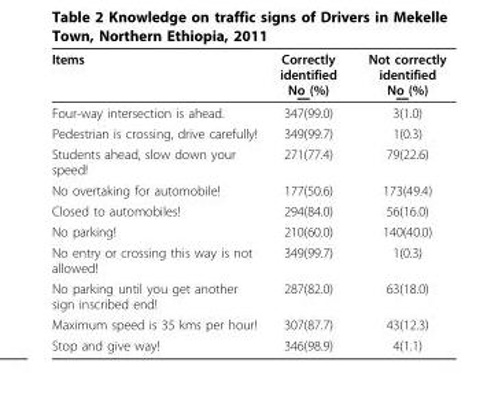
<table><thead><tr><td>Items</td><td>Correctly identified No (%)</td><td>Not correctly identified No (%)</td></tr></thead><tbody><tr><td>Four-way intersection is ahead.</td><td>347(99.0)</td><td>3(1.0)</td></tr><tr><td>Pedestrian is crossing, drive carefully!</td><td>349(99.7)</td><td>1(0.3)</td></tr><tr><td>Students ahead, slow down your speed!</td><td>271(77.4)</td><td>79(22.6)</td></tr><tr><td>No overtaking for automobile!</td><td>177(50.6)</td><td>173(49.4)</td></tr><tr><td>Closed to automobiles!</td><td>294(84.0)</td><td>56(16.0)</td></tr><tr><td>No parking!</td><td>210(60.0)</td><td>140(40.0)</td></tr><tr><td>No entry or crossing this way is not allowed!</td><td>349(99.7)</td><td>1(0.3)</td></tr><tr><td>No parking until you get another sign inscribed end!</td><td>287(82.0)</td><td>63(18.0)</td></tr><tr><td>Maximum speed is 35 kms per hour!</td><td>307(87.7)</td><td>43(12.3)</td></tr><tr><td>Stop and give way!</td><td>346(98.9)</td><td>4(1.1)</td></tr></tbody></table>